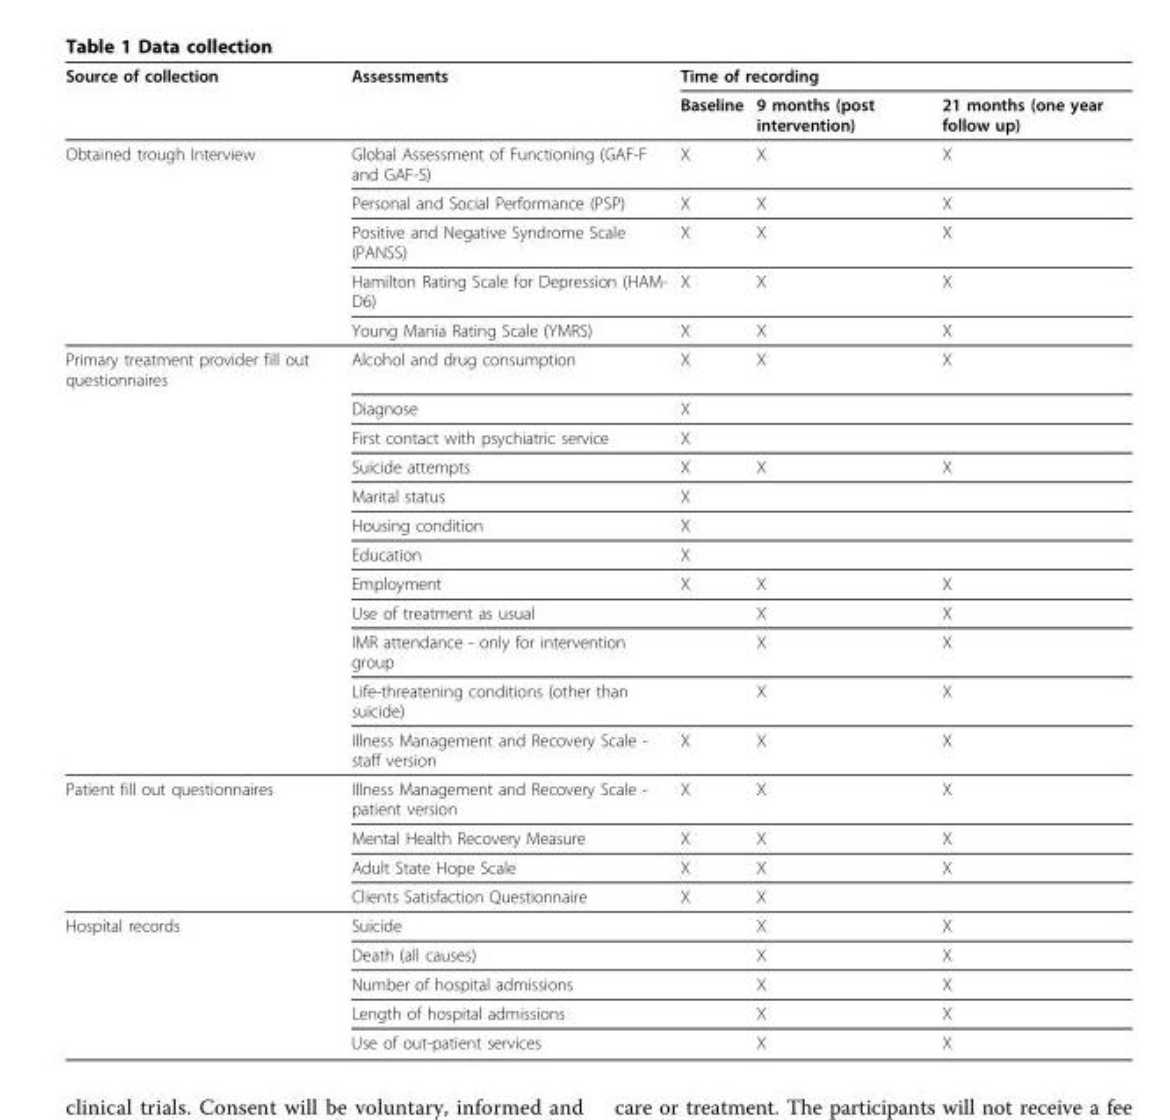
<table><thead><tr><td rowspan="2">Source of collection</td><td rowspan="2">Assessments</td><td colspan="3">Time of recording</td></tr><tr><td>Baseline</td><td>9 months (post intervention)</td><td>21 months (one year follow up)</td></tr></thead><tbody><tr><td rowspan="5">Obtained trough Interview</td><td>Global Assessment of Functioning (GAF-F and GAF-S)</td><td>X</td><td>X</td><td>X</td></tr><tr><td>Personal and Social Performance (PSP)</td><td>X</td><td>X</td><td>X</td></tr><tr><td>Positive and Negative Syndrome Scale (PANSS)</td><td>X</td><td>X</td><td>X</td></tr><tr><td>Hamilton Rating Scale for Depression (HAM- D6)</td><td>X</td><td>X</td><td>X</td></tr><tr><td>Young Mania Rating Scale (YMRS)</td><td>X</td><td>X</td><td>X</td></tr><tr><td rowspan="12">Primary treatment provider fill out questionnaires</td><td>Alcohol and drug consumption</td><td>X</td><td>X</td><td>X</td></tr><tr><td>Diagnose</td><td>X</td><td></td><td></td></tr><tr><td>First contact with psychiatric service</td><td>X</td><td></td><td></td></tr><tr><td>Suicide attempts</td><td>X</td><td>X</td><td>X</td></tr><tr><td>Marital status</td><td>X</td><td></td><td></td></tr><tr><td>Housing condition</td><td>X</td><td></td><td></td></tr><tr><td>Education</td><td>X</td><td></td><td></td></tr><tr><td>Employment</td><td>X</td><td>X</td><td>X</td></tr><tr><td>Use of treatment as usual</td><td></td><td>X</td><td>X</td></tr><tr><td>IMR attendance - only for intervention group</td><td></td><td>X</td><td>X</td></tr><tr><td>Life-threatening conditions (other than suicide)</td><td></td><td>X</td><td>X</td></tr><tr><td>Illness Management and Recovery Scale - staff version</td><td>X</td><td>X</td><td>X</td></tr><tr><td rowspan="4">Patient fill out questionnaires</td><td>Illness Management and Recovery Scale - patient version</td><td>X</td><td>X</td><td>X</td></tr><tr><td>Mental Health Recovery Measure</td><td>X</td><td>X</td><td>X</td></tr><tr><td>Adult State Hope Scale</td><td>X</td><td>X</td><td>X</td></tr><tr><td>Clients Satisfaction Questionnaire</td><td>X</td><td>X</td><td></td></tr><tr><td rowspan="5">Hospital records</td><td>Suicide</td><td></td><td>X</td><td>X</td></tr><tr><td>Death (all causes)</td><td></td><td>X</td><td>X</td></tr><tr><td>Number of hospital admissions</td><td></td><td>X</td><td>X</td></tr><tr><td>Length of hospital admissions</td><td></td><td>X</td><td>X</td></tr><tr><td>Use of out-patient services</td><td></td><td>X</td><td>X</td></tr></tbody></table>